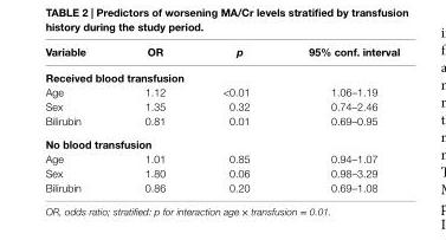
<table><thead><tr><td>Variable</td><td>Or</td><td>p</td><td>95% conf. interval</td></tr></thead><tbody><tr><td colspan="4">received blood transfusion</td></tr><tr><td>Age</td><td>1.12</td><td>&lt;0.01</td><td>1.06–1.19</td></tr><tr><td>Sex</td><td>1.35</td><td>0.32</td><td>0.74–2.46</td></tr><tr><td>Bilirubin</td><td>0.81</td><td>0.01</td><td>0.69–0.95</td></tr><tr><td colspan="4">no blood transfusion</td></tr><tr><td>Age</td><td>1.01</td><td>0.85</td><td>0.94–1.07</td></tr><tr><td>Sex</td><td>1.80</td><td>0.06</td><td>0.98–3.29</td></tr><tr><td>Bilirubin</td><td>0.86</td><td>0.20</td><td>0.69–1.08</td></tr></tbody></table>